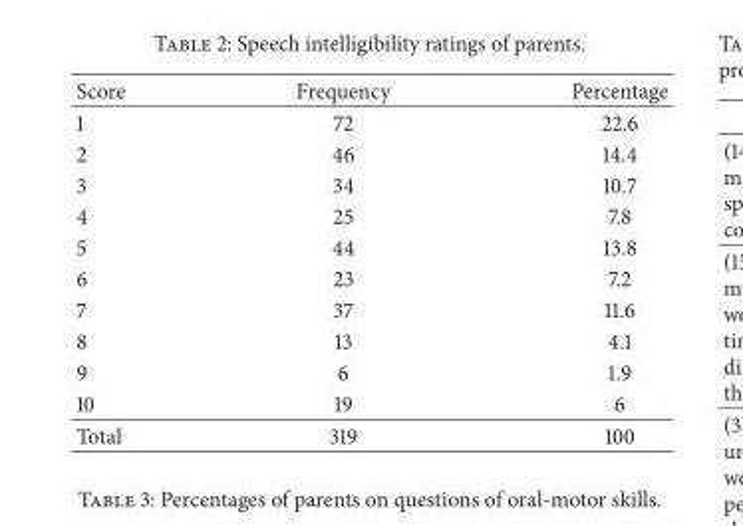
<table><thead><tr><td>Score</td><td>Frequency</td><td>Percentage</td></tr></thead><tbody><tr><td>1</td><td>72</td><td>22.6</td></tr><tr><td>2</td><td>46</td><td>14.4</td></tr><tr><td>3</td><td>34</td><td>10.7</td></tr><tr><td>4</td><td>25</td><td>7.8</td></tr><tr><td>5</td><td>44</td><td>13.8</td></tr><tr><td>6</td><td>23</td><td>7.2</td></tr><tr><td>7</td><td>37</td><td>11.6</td></tr><tr><td>8</td><td>13</td><td>4.1</td></tr><tr><td>9</td><td>6</td><td>1.9</td></tr><tr><td>10</td><td>19</td><td>6</td></tr><tr><td>Total</td><td>319</td><td>100</td></tr></tbody></table>